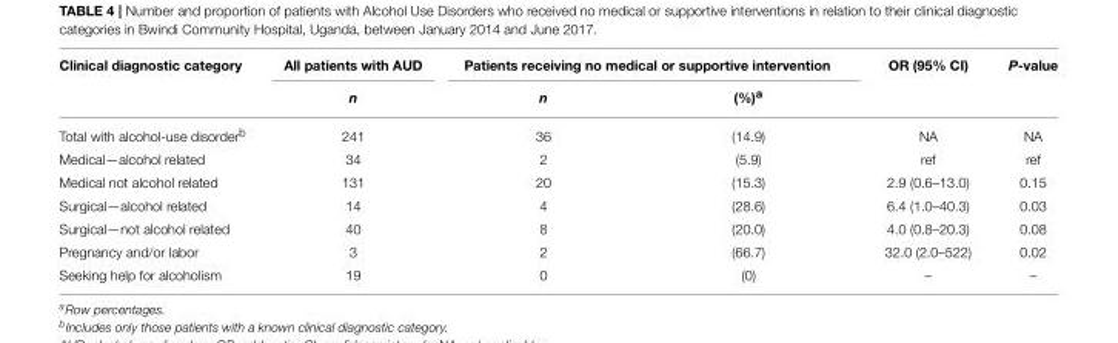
<table><thead><tr><td rowspan="2">Clinical diagnostic category</td><td rowspan="2">All patients with AUD n</td><td colspan="2">Patients receiving no medical or supportive intervention</td><td rowspan="2">OR (95% CI)</td><td rowspan="2">P-value</td></tr><tr><td>n</td><td>(%)<sup>a</sup></td></tr></thead><tbody><tr><td>Total with alcohol-use disorder<sup>b</sup></td><td>241</td><td>36</td><td>(14.9)</td><td>NA</td><td>NA</td></tr><tr><td>Medical—alcohol related</td><td>34</td><td>2</td><td>(5.9)</td><td>ref</td><td>ref</td></tr><tr><td>Medical not alcohol related</td><td>131</td><td>20</td><td>(15.3)</td><td>2.9 (0.6–13.0)</td><td>0.15</td></tr><tr><td>Surgical—alcohol related</td><td>14</td><td>4</td><td>(28.6)</td><td>6.4 (1.0–40.3)</td><td>0.03</td></tr><tr><td>Surgical—not alcohol related</td><td>40</td><td>8</td><td>(20.0)</td><td>4.0 (0.8–20.3)</td><td>0.08</td></tr><tr><td>Pregnancy and/or labor</td><td>3</td><td>2</td><td>(66.7)</td><td>32.0 (2.0–522)</td><td>0.02</td></tr><tr><td>Seeking help for alcoholism</td><td>19</td><td>0</td><td>(0)</td><td>–</td><td>–</td></tr></tbody></table>